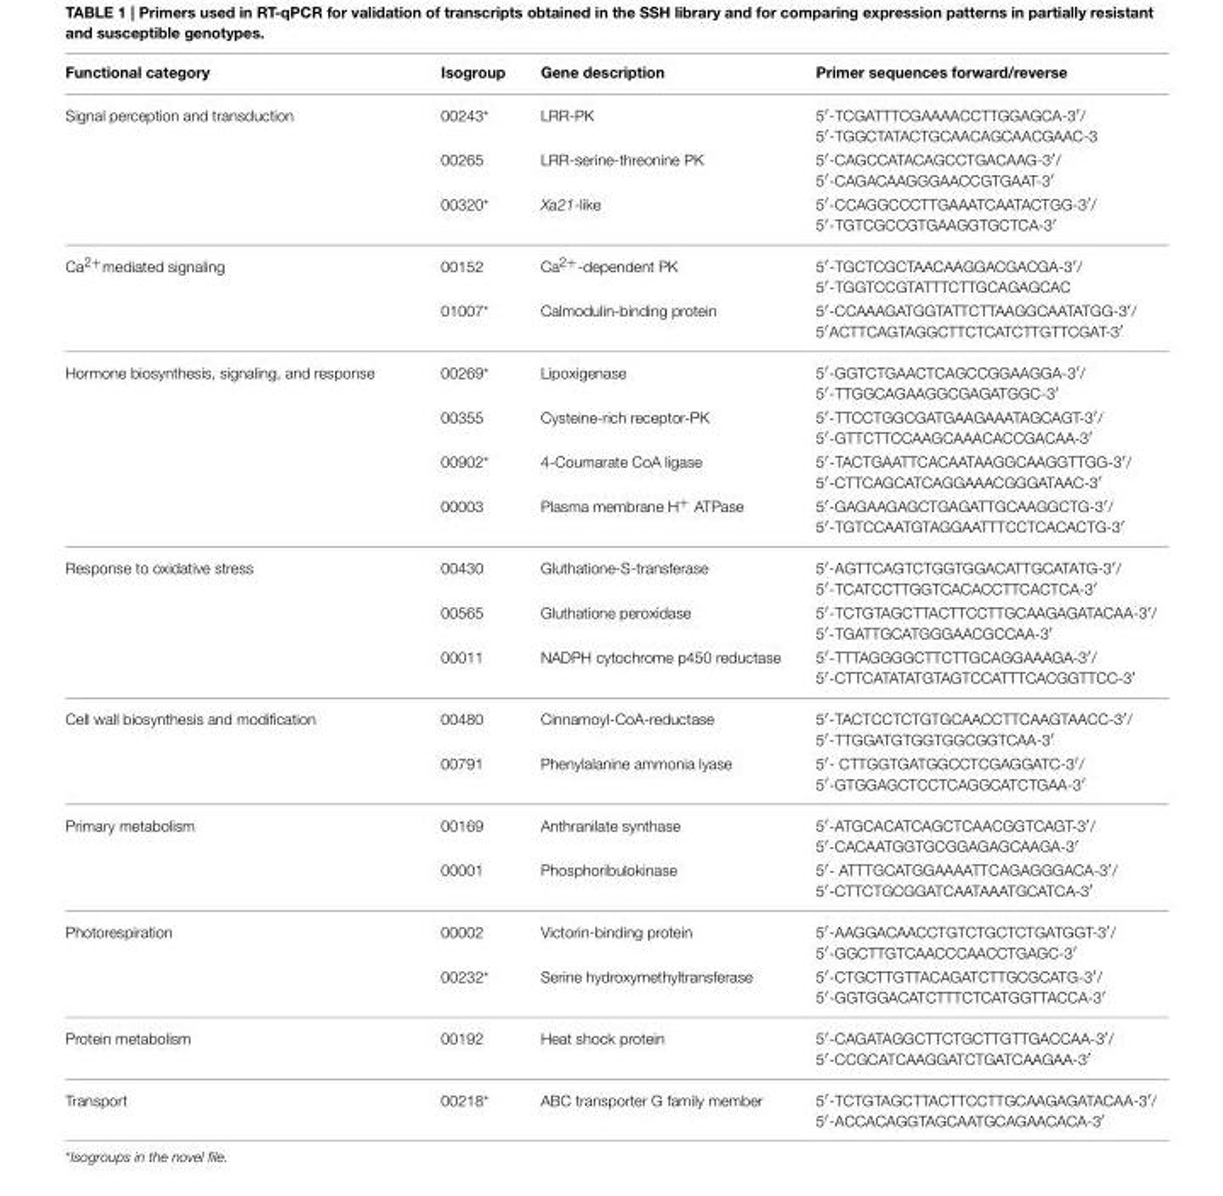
<table><thead><tr><td>Functional category</td><td>Isogroup</td><td>Gene description</td><td>Primer sequences forward/reverse</td></tr></thead><tbody><tr><td rowspan="3">Signal perception and transduction</td><td>00243*</td><td>LRR-PK</td><td>5′-TCGATTTCGAAAACCTTGGAGCA-3′/ 5′-TGGCTATACTGCAACAGCAACGAAC-3</td></tr><tr><td>00265</td><td>LRR-serine-threonine PK</td><td>5′-CAGCCATACAGCCTGACAAG-3′/ 5′-CAGACAAGGGAACCGTGAAT-3′</td></tr><tr><td>00320*</td><td>Xa21-like</td><td>5′-CCAGGCCCTTGAAATCAATACTGG-3′/ 5′-TGTCGCCGTGAAGGTGCTCA-3′</td></tr><tr><td rowspan="2">Ca<sup>2+</sup>mediated signaling</td><td>00152</td><td>Ca<sup>2+</sup>-dependent PK</td><td>5′-TGCTCGCTAACAAGGACGACGA-3′/ 5′-TGGTCCGTATTTCTTGCAGAGCAC</td></tr><tr><td>01007*</td><td>Calmodulin-binding protein</td><td>5′-CCAAAGATGGTATTCTTAAGGCAATATGG-3′/ 5′ACTTCAGTAGGCTTCTCATCTTGTTCGAT-3′</td></tr><tr><td rowspan="4">Hormone biosynthesis, signaling, and response</td><td>00269*</td><td>Lipoxigenase</td><td>5′-GGTCTGAACTCAGCCGGAAGGA-3′/ 5′-TTGGCAGAAGGCGAGATGGC-3′</td></tr><tr><td>00355</td><td>Cysteine-rich receptor-PK</td><td>5′-TTCCTGGCGATGAAGAAATAGCAGT-3′/ 5′-GTTCTTCCAAGCAAACACCGACAA-3′</td></tr><tr><td>00902*</td><td>4-Coumarate CoA ligase</td><td>5′-TACTGAATTCACAATAAGGCAAGGTTGG-3′/ 5′-CTTCAGCATCAGGAAACGGGATAAC-3′</td></tr><tr><td>00003</td><td>Plasma membrane H<sup>+</sup> ATPase</td><td>5′-GAGAAGAGCTGAGATTGCAAGGCTG-3′/ 5′-TGTCCAATGTAGGAATTTCCTCACACTG-3′</td></tr><tr><td rowspan="3">Response to oxidative stress</td><td>00430</td><td>Gluthatione-S-transferase</td><td>5′-AGTTCAGTCTGGTGGACATTGCATATG-3′/ 5′-TCATCCTTGGTCACACCTTCACTCA-3′</td></tr><tr><td>00565</td><td>Gluthatione peroxidase</td><td>5′-TCTGTAGCTTACTTCCTTGCAAGAGATACAA-3′/ 5′-TGATTGCATGGGAACGCCAA-3′</td></tr><tr><td>00011</td><td>NADPH cytochrome p450 reductase</td><td>5′-TTTAGGGGCTTCTTGCAGGAAAGA-3′/ 5′-CTTCATATATGTAGTCCATTTCACGGTTCC-3′</td></tr><tr><td rowspan="2">Cell wall biosynthesis and modification</td><td>00480</td><td>Cinnamoyl-CoA-reductase</td><td>5′-TACTCCTCTGTGCAACCTTCAAGTAACC-3′/ 5′-TTGGATGTGGTGGCGGTCAA-3′</td></tr><tr><td>00791</td><td>Phenylalanine ammonia lyase</td><td>5′- CTTGGTGATGGCCTCGAGGATC-3′/ 5′-GTGGAGCTCCTCAGGCATCTGAA-3′</td></tr><tr><td rowspan="2">Primary metabolism</td><td>00169</td><td>Anthranilate synthase</td><td>5′-ATGCACATCAGCTCAACGGTCAGT-3′/ 5′-CACAATGGTGCGGAGAGCAAGA-3′</td></tr><tr><td>00001</td><td>Phosphoribulokinase</td><td>5′- ATTTGCATGGAAAATTCAGAGGGACA-3′/ 5′-CTTCTGCGGATCAATAAATGCATCA-3′</td></tr><tr><td rowspan="2">Photorespiration</td><td>00002</td><td>Victorin-binding protein</td><td>5′-AAGGACAACCTGTCTGCTCTGATGGT-3′/ 5′-GGCTTGTCAACCCAACCTGAGC-3′</td></tr><tr><td>00232*</td><td>Serine hydroxymethyltransferase</td><td>5′-CTGCTTGTTACAGATCTTGCGCATG-3′/ 5′-GGTGGACATCTTTCTCATGGTTACCA-3′</td></tr><tr><td>Protein metabolism</td><td>00192</td><td>Heat shock protein</td><td>5′-CAGATAGGCTTCTGCTTGTTGACCAA-3′/ 5′-CCGCATCAAGGATCTGATCAAGAA-3′</td></tr><tr><td>Transport</td><td>00218*</td><td>ABC transporter G family member</td><td>5′-TCTGTAGCTTACTTCCTTGCAAGAGATACAA-3′/ 5′-ACCACAGGTAGCAATGCAGAACACA-3′</td></tr></tbody></table>